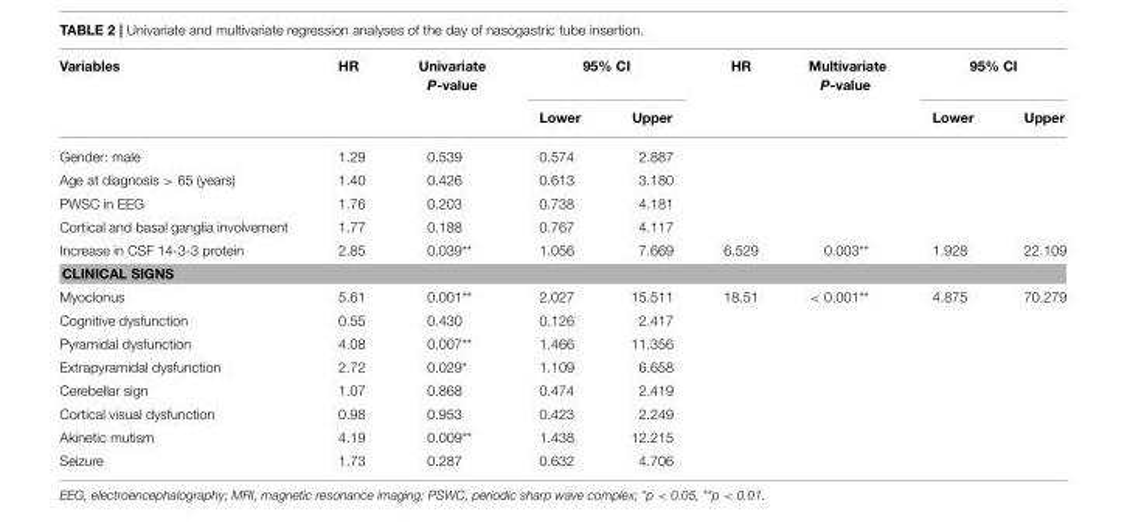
<table><thead><tr><td rowspan="2">Variables</td><td rowspan="2">HR</td><td rowspan="2">Univariate P-value</td><td colspan="2">95% CI</td><td rowspan="2">HR</td><td rowspan="2">Multivariate P-value</td><td colspan="2">95% CI</td></tr><tr><td>Lower</td><td>Upper</td><td>Lower</td><td>Upper</td></tr></thead><tbody><tr><td>Gender: male</td><td>1.29</td><td>0.539</td><td>0.574</td><td>2.887</td><td></td><td></td><td></td><td></td></tr><tr><td>Age at diagnosis &gt; 65 (years)</td><td>1.40</td><td>0.426</td><td>0.613</td><td>3.180</td><td></td><td></td><td></td><td></td></tr><tr><td>PWSC in EEG</td><td>1.76</td><td>0.203</td><td>0.738</td><td>4.181</td><td></td><td></td><td></td><td></td></tr><tr><td>Cortical and basal ganglia involvement</td><td>1.77</td><td>0.188</td><td>0.767</td><td>4.117</td><td></td><td></td><td></td><td></td></tr><tr><td>Increase in CSF 14-3-3 protein</td><td>2.85</td><td>0.039**</td><td>1.056</td><td>7.669</td><td>6.529</td><td>0.003**</td><td>1.928</td><td>22.109</td></tr><tr><td colspan="9">CLINICAL SIGNS</td></tr><tr><td>Myoclonus</td><td>5.61</td><td>0.001**</td><td>2.027</td><td>15.511</td><td>18.51</td><td>&lt; 0.001**</td><td>4.875</td><td>70.279</td></tr><tr><td>Cognitive dysfunction</td><td>0.55</td><td>0.430</td><td>0.126</td><td>2.417</td><td></td><td></td><td></td><td></td></tr><tr><td>Pyramidal dysfunction</td><td>4.08</td><td>0.007**</td><td>1.466</td><td>11.356</td><td></td><td></td><td></td><td></td></tr><tr><td>Extrapyramidal dysfunction</td><td>2.72</td><td>0.029*</td><td>1.109</td><td>6.658</td><td></td><td></td><td></td><td></td></tr><tr><td>Cerebellar sign</td><td>1.07</td><td>0.868</td><td>0.474</td><td>2.419</td><td></td><td></td><td></td><td></td></tr><tr><td>Cortical visual dysfunction</td><td>0.98</td><td>0.953</td><td>0.423</td><td>2.249</td><td></td><td></td><td></td><td></td></tr><tr><td>Akinetic mutism</td><td>4.19</td><td>0.009**</td><td>1.438</td><td>12.215</td><td></td><td></td><td></td><td></td></tr><tr><td>Seizure</td><td>1.73</td><td>0.287</td><td>0.632</td><td>4.706</td><td></td><td></td><td></td><td></td></tr></tbody></table>